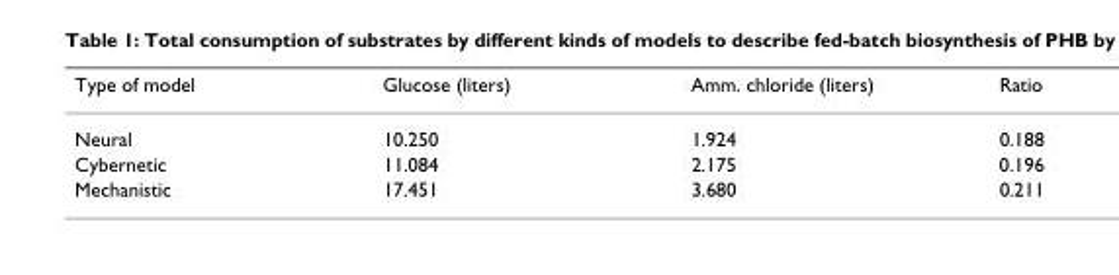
<table><thead><tr><td>Type of model</td><td>Glucose (liters)</td><td>Amm. chloride (liters)</td><td>Ratio</td></tr></thead><tbody><tr><td>Neural</td><td>10.250</td><td>1.924</td><td>0.188</td></tr><tr><td>Cybernetic</td><td>11.084</td><td>2.175</td><td>0.196</td></tr><tr><td>Mechanistic</td><td>17.451</td><td>3.680</td><td>0.211</td></tr></tbody></table>